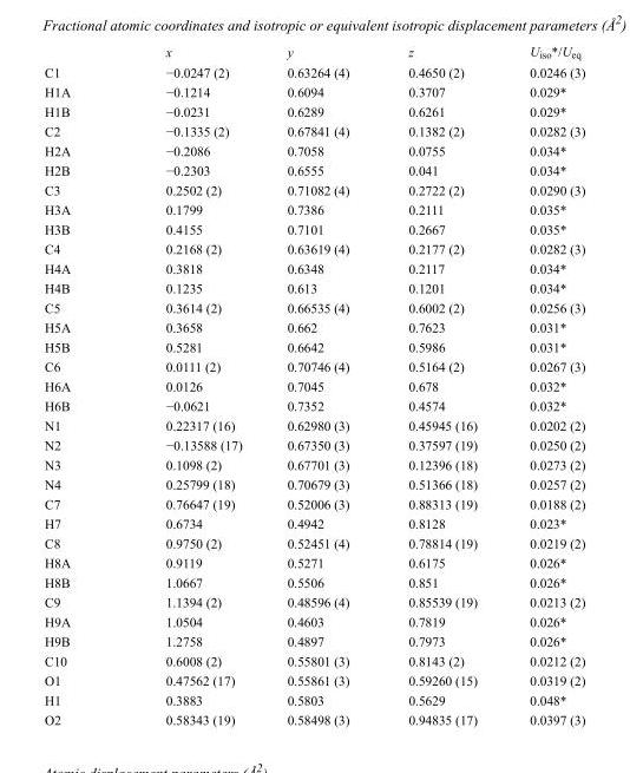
<table><thead><tr><td></td><td>x</td><td>y</td><td>z</td><td>U<sub>iso</sub>*/U<sub>eq</sub></td></tr></thead><tbody><tr><td>C1</td><td>−0.0247 (2)</td><td>0.63264 (4)</td><td>0.4650 (2)</td><td>0.0246 (3)</td></tr><tr><td>H1A</td><td>−0.1214</td><td>0.6094</td><td>0.3707</td><td>0.029*</td></tr><tr><td>H1B</td><td>−0.0231</td><td>0.6289</td><td>0.6261</td><td>0.029*</td></tr><tr><td>C2</td><td>−0.1335 (2)</td><td>0.67841 (4)</td><td>0.1382 (2)</td><td>0.0282 (3)</td></tr><tr><td>H2A</td><td>−0.2086</td><td>0.7058</td><td>0.0755</td><td>0.034*</td></tr><tr><td>H2B</td><td>−0.2303</td><td>0.6555</td><td>0.041</td><td>0.034*</td></tr><tr><td>C3</td><td>0.2502 (2)</td><td>0.71082 (4)</td><td>0.2722 (2)</td><td>0.0290 (3)</td></tr><tr><td>H3A</td><td>0.1799</td><td>0.7386</td><td>0.2111</td><td>0.035*</td></tr><tr><td>H3B</td><td>0.4155</td><td>0.7101</td><td>0.2667</td><td>0.035*</td></tr><tr><td>C4</td><td>0.2168 (2)</td><td>0.63619 (4)</td><td>0.2177 (2)</td><td>0.0282 (3)</td></tr><tr><td>H4A</td><td>0.3818</td><td>0.6348</td><td>0.2117</td><td>0.034*</td></tr><tr><td>H4B</td><td>0.1235</td><td>0.613</td><td>0.1201</td><td>0.034*</td></tr><tr><td>C5</td><td>0.3614 (2)</td><td>0.66535 (4)</td><td>0.6002 (2)</td><td>0.0256 (3)</td></tr><tr><td>H5A</td><td>0.3658</td><td>0.662</td><td>0.7623</td><td>0.031*</td></tr><tr><td>H5B</td><td>0.5281</td><td>0.6642</td><td>0.5986</td><td>0.031*</td></tr><tr><td>C6</td><td>0.0111 (2)</td><td>0.70746 (4)</td><td>0.5164 (2)</td><td>0.0267 (3)</td></tr><tr><td>H6A</td><td>0.0126</td><td>0.7045</td><td>0.678</td><td>0.032*</td></tr><tr><td>H6B</td><td>−0.0621</td><td>0.7352</td><td>0.4574</td><td>0.032*</td></tr><tr><td>N1</td><td>0.22317 (16)</td><td>0.62980 (3)</td><td>0.45945 (16)</td><td>0.0202 (2)</td></tr><tr><td>N2</td><td>−0.13588 (17)</td><td>0.67350 (3)</td><td>0.37597 (19)</td><td>0.0250 (2)</td></tr><tr><td>N3</td><td>0.1098 (2)</td><td>0.67701 (3)</td><td>0.12396 (18)</td><td>0.0273 (2)</td></tr><tr><td>N4</td><td>0.25799 (18)</td><td>0.70679 (3)</td><td>0.51366 (18)</td><td>0.0257 (2)</td></tr><tr><td>C7</td><td>0.76647 (19)</td><td>0.52006 (3)</td><td>0.88313 (19)</td><td>0.0188 (2)</td></tr><tr><td>H7</td><td>0.6734</td><td>0.4942</td><td>0.8128</td><td>0.023*</td></tr><tr><td>C8</td><td>0.9750 (2)</td><td>0.52451 (4)</td><td>0.78814 (19)</td><td>0.0219 (2)</td></tr><tr><td>H8A</td><td>0.9119</td><td>0.5271</td><td>0.6175</td><td>0.026*</td></tr><tr><td>H8B</td><td>1.0667</td><td>0.5506</td><td>0.851</td><td>0.026*</td></tr><tr><td>C9</td><td>1.1394 (2)</td><td>0.48596 (4)</td><td>0.85539 (19)</td><td>0.0213 (2)</td></tr><tr><td>H9A</td><td>1.0504</td><td>0.4603</td><td>0.7819</td><td>0.026*</td></tr><tr><td>H9B</td><td>1.2758</td><td>0.4897</td><td>0.7973</td><td>0.026*</td></tr><tr><td>C10</td><td>0.6008 (2)</td><td>0.55801 (3)</td><td>0.8143 (2)</td><td>0.0212 (2)</td></tr><tr><td>O1</td><td>0.47562 (17)</td><td>0.55861 (3)</td><td>0.59260 (15)</td><td>0.0319 (2)</td></tr><tr><td>H1</td><td>0.3883</td><td>0.5803</td><td>0.5629</td><td>0.048*</td></tr><tr><td>O2</td><td>0.58343 (19)</td><td>0.58498 (3)</td><td>0.94835 (17)</td><td>0.0397 (3)</td></tr></tbody></table>